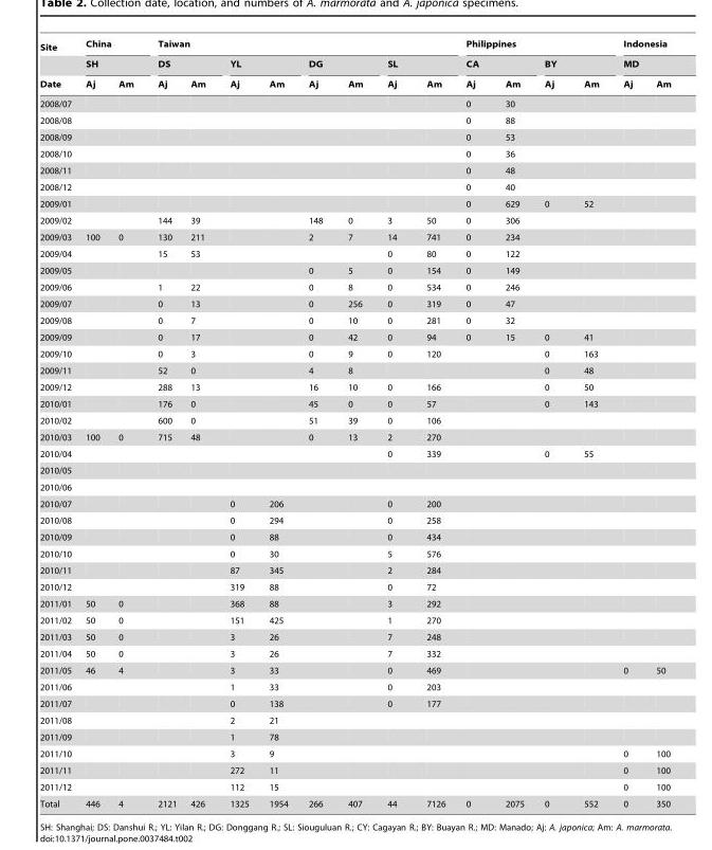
<table><thead><tr><td rowspan="3">Site Date</td><td rowspan="2" colspan="2">China SH</td><td colspan="8">Taiwan</td><td colspan="4">Philippines</td><td rowspan="2" colspan="2">Indonesia MD</td></tr><tr><td colspan="2">DS</td><td colspan="2">YL</td><td colspan="2">DG</td><td colspan="2">SL</td><td colspan="2">CA</td><td colspan="2">BY</td></tr><tr><td>Aj</td><td>Am</td><td>Aj</td><td>Am</td><td>Aj</td><td>Am</td><td>Aj</td><td>Am</td><td>Aj</td><td>Am</td><td>Aj</td><td>Am</td><td>Aj</td><td>Am</td><td>Aj</td><td>Am</td></tr></thead><tbody><tr><td>2008/07</td><td></td><td></td><td></td><td></td><td></td><td></td><td></td><td></td><td></td><td></td><td>0</td><td>30</td><td></td><td></td><td></td><td></td></tr><tr><td>2008/08</td><td></td><td></td><td></td><td></td><td></td><td></td><td></td><td></td><td></td><td></td><td>0</td><td>88</td><td></td><td></td><td></td><td></td></tr><tr><td>2008/09</td><td></td><td></td><td></td><td></td><td></td><td></td><td></td><td></td><td></td><td></td><td>0</td><td>53</td><td></td><td></td><td></td><td></td></tr><tr><td>2008/10</td><td></td><td></td><td></td><td></td><td></td><td></td><td></td><td></td><td></td><td></td><td>0</td><td>36</td><td></td><td></td><td></td><td></td></tr><tr><td>2008/11</td><td></td><td></td><td></td><td></td><td></td><td></td><td></td><td></td><td></td><td></td><td>0</td><td>48</td><td></td><td></td><td></td><td></td></tr><tr><td>2008/12</td><td></td><td></td><td></td><td></td><td></td><td></td><td></td><td></td><td></td><td></td><td>0</td><td>40</td><td></td><td></td><td></td><td></td></tr><tr><td>2009/01</td><td></td><td></td><td></td><td></td><td></td><td></td><td></td><td></td><td></td><td></td><td>0</td><td>629</td><td>0</td><td>52</td><td></td><td></td></tr><tr><td>2009/02</td><td></td><td></td><td>144</td><td>39</td><td></td><td></td><td>148</td><td>0</td><td>3</td><td>50</td><td>0</td><td>306</td><td></td><td></td><td></td><td></td></tr><tr><td>2009/03</td><td>100</td><td>0</td><td>130</td><td>211</td><td></td><td></td><td>2</td><td>7</td><td>14</td><td>741</td><td>0</td><td>234</td><td></td><td></td><td></td><td></td></tr><tr><td>2009/04</td><td></td><td></td><td>15</td><td>53</td><td></td><td></td><td></td><td></td><td>0</td><td>80</td><td>0</td><td>122</td><td></td><td></td><td></td><td></td></tr><tr><td>2009/05</td><td></td><td></td><td></td><td></td><td></td><td></td><td>0</td><td>5</td><td>0</td><td>154</td><td>0</td><td>149</td><td></td><td></td><td></td><td></td></tr><tr><td>2009/06</td><td></td><td></td><td>1</td><td>22</td><td></td><td></td><td>0</td><td>8</td><td>0</td><td>534</td><td>0</td><td>246</td><td></td><td></td><td></td><td></td></tr><tr><td>2009/07</td><td></td><td></td><td>0</td><td>13</td><td></td><td></td><td>0</td><td>256</td><td>0</td><td>319</td><td>0</td><td>47</td><td></td><td></td><td></td><td></td></tr><tr><td>2009/08</td><td></td><td></td><td>0</td><td>7</td><td></td><td></td><td>0</td><td>10</td><td>0</td><td>281</td><td>0</td><td>32</td><td></td><td></td><td></td><td></td></tr><tr><td>2009/09</td><td></td><td></td><td>0</td><td>17</td><td></td><td></td><td>0</td><td>42</td><td>0</td><td>94</td><td>0</td><td>15</td><td>0</td><td>41</td><td></td><td></td></tr><tr><td>2009/10</td><td></td><td></td><td>0</td><td>3</td><td></td><td></td><td>0</td><td>9</td><td>0</td><td>120</td><td></td><td></td><td>0</td><td>163</td><td></td><td></td></tr><tr><td>2009/11</td><td></td><td></td><td>52</td><td>0</td><td></td><td></td><td>4</td><td>8</td><td></td><td></td><td></td><td></td><td>0</td><td>48</td><td></td><td></td></tr><tr><td>2009/12</td><td></td><td></td><td>288</td><td>13</td><td></td><td></td><td>16</td><td>10</td><td>0</td><td>166</td><td></td><td></td><td>0</td><td>50</td><td></td><td></td></tr><tr><td>2010/01</td><td></td><td></td><td>176</td><td>0</td><td></td><td></td><td>45</td><td>0</td><td>0</td><td>57</td><td></td><td></td><td>0</td><td>143</td><td></td><td></td></tr><tr><td>2010/02</td><td></td><td></td><td>600</td><td>0</td><td></td><td></td><td>51</td><td>39</td><td>0</td><td>106</td><td></td><td></td><td></td><td></td><td></td><td></td></tr><tr><td>2010/03</td><td>100</td><td>0</td><td>715</td><td>48</td><td></td><td></td><td>0</td><td>13</td><td>2</td><td>270</td><td></td><td></td><td></td><td></td><td></td><td></td></tr><tr><td>2010/04</td><td></td><td></td><td></td><td></td><td></td><td></td><td></td><td></td><td>0</td><td>339</td><td></td><td></td><td>0</td><td>55</td><td></td><td></td></tr><tr><td colspan="17">2010/05</td></tr><tr><td colspan="17">2010/06</td></tr><tr><td>2010/07</td><td></td><td></td><td></td><td></td><td>0</td><td>206</td><td></td><td></td><td>0</td><td>200</td><td></td><td></td><td></td><td></td><td></td><td></td></tr><tr><td>2010/08</td><td></td><td></td><td></td><td></td><td>0</td><td>294</td><td></td><td></td><td>0</td><td>258</td><td></td><td></td><td></td><td></td><td></td><td></td></tr><tr><td>2010/09</td><td></td><td></td><td></td><td></td><td>0</td><td>88</td><td></td><td></td><td>0</td><td>434</td><td></td><td></td><td></td><td></td><td></td><td></td></tr><tr><td>2010/10</td><td></td><td></td><td></td><td></td><td>0</td><td>30</td><td></td><td></td><td>5</td><td>576</td><td></td><td></td><td></td><td></td><td></td><td></td></tr><tr><td>2010/11</td><td></td><td></td><td></td><td></td><td>87</td><td>345</td><td></td><td></td><td>2</td><td>284</td><td></td><td></td><td></td><td></td><td></td><td></td></tr><tr><td>2010/12</td><td></td><td></td><td></td><td></td><td>319</td><td>88</td><td></td><td></td><td>0</td><td>72</td><td></td><td></td><td></td><td></td><td></td><td></td></tr><tr><td>2011/01</td><td>50</td><td>0</td><td></td><td></td><td>368</td><td>88</td><td></td><td></td><td>3</td><td>292</td><td></td><td></td><td></td><td></td><td></td><td></td></tr><tr><td>2011/02</td><td>50</td><td>0</td><td></td><td></td><td>151</td><td>425</td><td></td><td></td><td>1</td><td>270</td><td></td><td></td><td></td><td></td><td></td><td></td></tr><tr><td>2011/03</td><td>50</td><td>0</td><td></td><td></td><td>3</td><td>26</td><td></td><td></td><td>7</td><td>248</td><td></td><td></td><td></td><td></td><td></td><td></td></tr><tr><td>2011/04</td><td>50</td><td>0</td><td></td><td></td><td>3</td><td>26</td><td></td><td></td><td>7</td><td>332</td><td></td><td></td><td></td><td></td><td></td><td></td></tr><tr><td>2011/05</td><td>46</td><td>4</td><td></td><td></td><td>3</td><td>33</td><td></td><td></td><td>0</td><td>469</td><td></td><td></td><td></td><td></td><td>0</td><td>50</td></tr><tr><td>2011/06</td><td></td><td></td><td></td><td></td><td>1</td><td>33</td><td></td><td></td><td>0</td><td>203</td><td></td><td></td><td></td><td></td><td></td><td></td></tr><tr><td>2011/07</td><td></td><td></td><td></td><td></td><td>0</td><td>138</td><td></td><td></td><td>0</td><td>177</td><td></td><td></td><td></td><td></td><td></td><td></td></tr><tr><td>2011/08</td><td></td><td></td><td></td><td></td><td>2</td><td>21</td><td></td><td></td><td></td><td></td><td></td><td></td><td></td><td></td><td></td><td></td></tr><tr><td>2011/09</td><td></td><td></td><td></td><td></td><td>1</td><td>78</td><td></td><td></td><td></td><td></td><td></td><td></td><td></td><td></td><td></td><td></td></tr><tr><td>2011/10</td><td></td><td></td><td></td><td></td><td>3</td><td>9</td><td></td><td></td><td></td><td></td><td></td><td></td><td></td><td></td><td>0</td><td>100</td></tr><tr><td>2011/11</td><td></td><td></td><td></td><td></td><td>272</td><td>11</td><td></td><td></td><td></td><td></td><td></td><td></td><td></td><td></td><td>0</td><td>100</td></tr><tr><td>2011/12</td><td></td><td></td><td></td><td></td><td>112</td><td>15</td><td></td><td></td><td></td><td></td><td></td><td></td><td></td><td></td><td>0</td><td>100</td></tr><tr><td>Total</td><td>446</td><td>4</td><td>2121</td><td>426</td><td>1325</td><td>1954</td><td>266</td><td>407</td><td>44</td><td>7126</td><td>0</td><td>2075</td><td>0</td><td>552</td><td>0</td><td>350</td></tr></tbody></table>